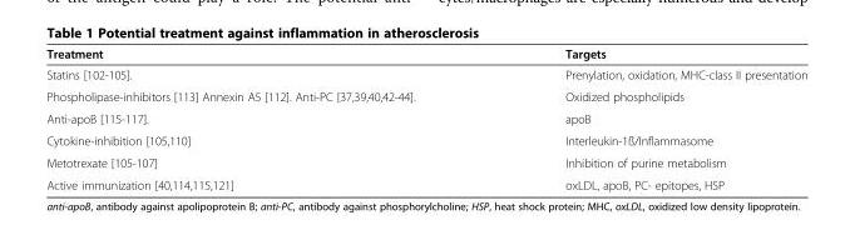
<table><thead><tr><td>Treatment</td><td>Targets</td></tr></thead><tbody><tr><td>Statins [102-105].</td><td>Prenylation, oxidation, MHC-class II presentation</td></tr><tr><td>Phospholipase-inhibitors [113] Annexin A5 [112]. Anti-PC [37,39,40,42-44].</td><td>Oxidized phospholipids</td></tr><tr><td>Anti-apoB [115-117].</td><td>apoB</td></tr><tr><td>Cytokine-inhibition [105,110]</td><td>Interleukin-1ß/Inflammasome</td></tr><tr><td>Metotrexate [105-107]</td><td>Inhibition of purine metabolism</td></tr><tr><td>Active immunization [40,114,115,121]</td><td>oxLDL, apoB, PC- epitopes, HSP</td></tr></tbody></table>